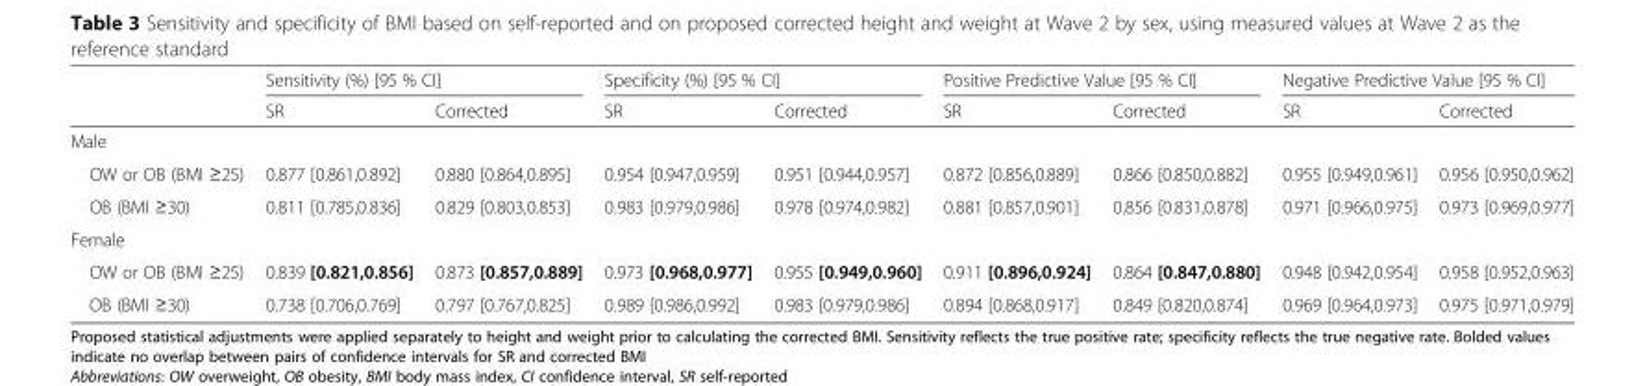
<table><thead><tr><td rowspan="2"></td><td colspan="2">Sensitivity (%) [95 % CI]</td><td colspan="2">Specificity (%) [95 % CI]</td><td colspan="2">Positive Predictive Value [95 % CI]</td><td colspan="2">Negative Predictive Value [95 % CI]</td></tr><tr><td>SR</td><td>Corrected</td><td>SR</td><td>Corrected</td><td>SR</td><td>Corrected</td><td>SR</td><td>Corrected</td></tr></thead><tbody><tr><td colspan="9">Male</td></tr><tr><td>OW or OB (BMI ≥25)</td><td>0.877 [0.861,0.892]</td><td>0.880 [0.864,0.895]</td><td>0.954 [0.947,0.959]</td><td>0.951 [0.944,0.957]</td><td>0.872 [0.856,0.889]</td><td>0.866 [0.850,0.882]</td><td>0.955 [0.949,0.961]</td><td>0.956 [0.950,0.962]</td></tr><tr><td>OB (BMI ≥30)</td><td>0.811 [0.785,0.836]</td><td>0.829 [0.803,0.853]</td><td>0.983 [0.979,0.986]</td><td>0.978 [0.974,0.982]</td><td>0.881 [0.857,0.901]</td><td>0.856 [0.831,0.878]</td><td>0.971 [0.966,0.975]</td><td>0.973 [0.969,0.977]</td></tr><tr><td colspan="9">Female</td></tr><tr><td>OW or OB (BMI ≥25)</td><td>0.839 [0.821,0.856]</td><td>0.873 [0.857,0.889]</td><td>0.973 [0.968,0.977]</td><td>0.955 [0.949,0.960]</td><td>0.911 [0.896,0.924]</td><td>0.864 [0.847,0.880]</td><td>0.948 [0.942,0.954]</td><td>0.958 [0.952,0.963]</td></tr><tr><td>OB (BMI ≥30)</td><td>0.738 [0.706,0.769]</td><td>0.797 [0.767,0.825]</td><td>0.989 [0.986,0.992]</td><td>0.983 [0.979,0.986]</td><td>0.894 [0.868,0.917]</td><td>0.849 [0.820,0.874]</td><td>0.969 [0.964,0.973]</td><td>0.975 [0.971,0.979]</td></tr></tbody></table>